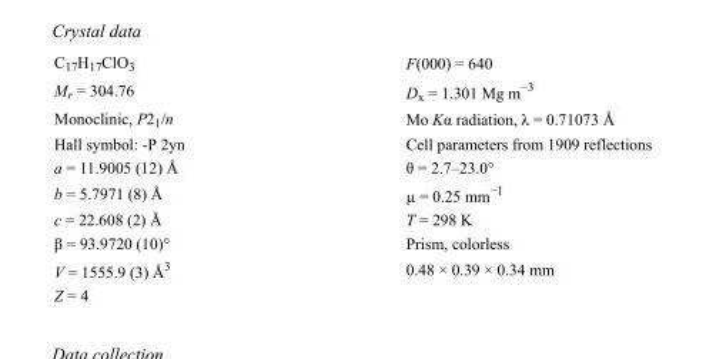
<table><tbody><tr><td>C<sub>17</sub>H<sub>17</sub>ClO<sub>3</sub></td><td>F(000) = 640</td></tr><tr><td>M<sub>r</sub> = 304.76</td><td>D<sub>x</sub> = 1.301 Mg m<sup>−3</sup></td></tr><tr><td>Monoclinic, P2<sub>1</sub>/n</td><td>Mo Kα radiation, λ = 0.71073 Å</td></tr><tr><td>Hall symbol: -P 2yn</td><td>Cell parameters from 1909 reflections</td></tr><tr><td>a = 11.9005 (12) Å</td><td>θ = 2.7–23.0°</td></tr><tr><td>b = 5.7971 (8) Å</td><td>µ = 0.25 mm<sup>−1</sup></td></tr><tr><td>c = 22.608 (2) Å</td><td>T = 298 K</td></tr><tr><td>β = 93.9720 (10)°</td><td>Prism, colorless</td></tr><tr><td>V = 1555.9 (3) Å<sup>3</sup></td><td>0.48 × 0.39 × 0.34 mm</td></tr><tr><td>Z = 4</td><td></td></tr></tbody></table>